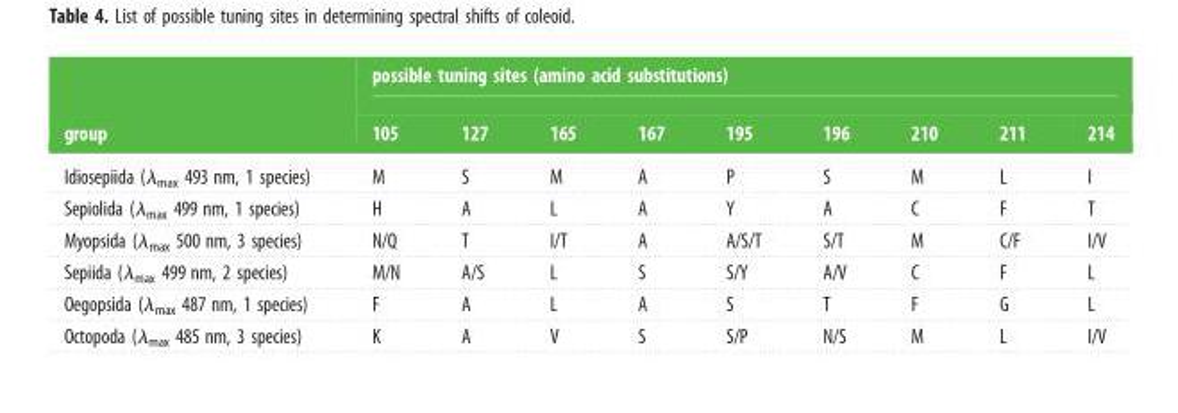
<table><thead><tr><td rowspan="2">group</td><td colspan="9">possible tuning sites (amino acid substitutions)</td></tr><tr><td>105</td><td>127</td><td>165</td><td>167</td><td>195</td><td>196</td><td>210</td><td>211</td><td>214</td></tr></thead><tbody><tr><td>Idiosepiida (λ<sub>max</sub> 493 nm, 1 species)</td><td>M</td><td>S</td><td>M</td><td>A</td><td>P</td><td>S</td><td>M</td><td>L</td><td>I</td></tr><tr><td>Sepiolida (λ<sub>max</sub> 499 nm, 1 species)</td><td>H</td><td>A</td><td>L</td><td>A</td><td>Y</td><td>A</td><td>C</td><td>F</td><td>T</td></tr><tr><td>Myopsida (λ<sub>max</sub> 500 nm, 3 species)</td><td>N/Q</td><td>T</td><td>I/T</td><td>A</td><td>A/S/T</td><td>S/T</td><td>M</td><td>C/F</td><td>I/V</td></tr><tr><td>Sepiida (λ<sub>max</sub> 499 nm, 2 species)</td><td>M/N</td><td>A/S</td><td>L</td><td>S</td><td>S/Y</td><td>A/V</td><td>C</td><td>F</td><td>L</td></tr><tr><td>Oegopsida (λ<sub>max</sub> 487 nm, 1 species)</td><td>F</td><td>A</td><td>L</td><td>A</td><td>S</td><td>T</td><td>F</td><td>G</td><td>L</td></tr><tr><td>Octopoda (λ<sub>max</sub> 485 nm, 3 species)</td><td>K</td><td>A</td><td>V</td><td>S</td><td>S/P</td><td>N/S</td><td>M</td><td>L</td><td>I/V</td></tr></tbody></table>